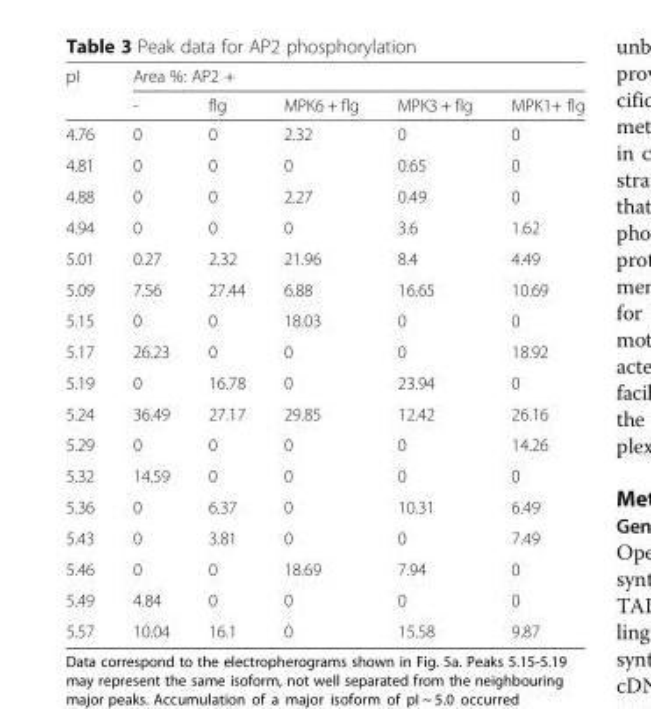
<table><thead><tr><td rowspan="2">pI</td><td colspan="5">Area %: AP2 +</td></tr><tr><td>-</td><td>flg</td><td>MPK6 + flg</td><td>MPK3 + flg</td><td>MPK1+ flg</td></tr></thead><tbody><tr><td>4.76</td><td>0</td><td>0</td><td>2.32</td><td>0</td><td>0</td></tr><tr><td>4.81</td><td>0</td><td>0</td><td>0</td><td>0.65</td><td>0</td></tr><tr><td>4.88</td><td>0</td><td>0</td><td>2.27</td><td>0.49</td><td>0</td></tr><tr><td>4.94</td><td>0</td><td>0</td><td>0</td><td>3.6</td><td>1.62</td></tr><tr><td>5.01</td><td>0.27</td><td>2.32</td><td>21.96</td><td>8.4</td><td>4.49</td></tr><tr><td>5.09</td><td>7.56</td><td>27.44</td><td>6.88</td><td>16.65</td><td>10.69</td></tr><tr><td>5.15</td><td>0</td><td>0</td><td>18.03</td><td>0</td><td>0</td></tr><tr><td>5.17</td><td>26.23</td><td>0</td><td>0</td><td>0</td><td>18.92</td></tr><tr><td>5.19</td><td>0</td><td>16.78</td><td>0</td><td>23.94</td><td>0</td></tr><tr><td>5.24</td><td>36.49</td><td>27.17</td><td>29.85</td><td>12.42</td><td>26.16</td></tr><tr><td>5.29</td><td>0</td><td>0</td><td>0</td><td>0</td><td>14.26</td></tr><tr><td>5.32</td><td>14.59</td><td>0</td><td>0</td><td>0</td><td>0</td></tr><tr><td>5.36</td><td>0</td><td>6.37</td><td>0</td><td>10.31</td><td>6.49</td></tr><tr><td>5.43</td><td>0</td><td>3.81</td><td>0</td><td>0</td><td>7.49</td></tr><tr><td>5.46</td><td>0</td><td>0</td><td>18.69</td><td>7.94</td><td>0</td></tr><tr><td>5.49</td><td>4.84</td><td>0</td><td>0</td><td>0</td><td>0</td></tr><tr><td>5.57</td><td>10.04</td><td>16.1</td><td>0</td><td>15.58</td><td>9.87</td></tr></tbody></table>